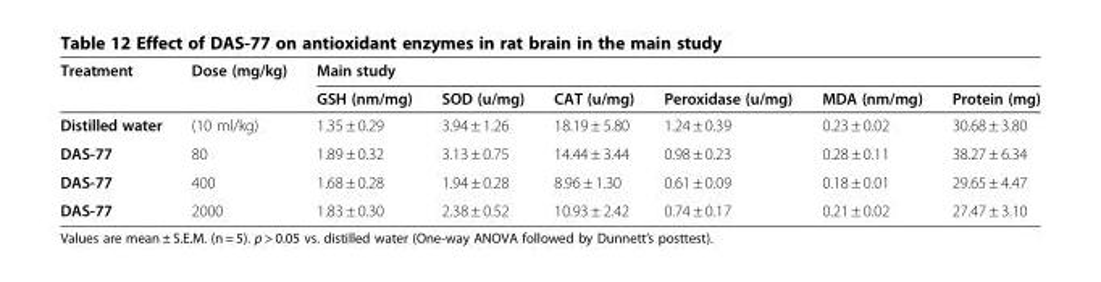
<table><tbody><tr><td rowspan="2">Treatment</td><td>Dose (mg/kg)</td><td colspan="6">Main study</td></tr><tr><td></td><td>GSH (nm/mg)</td><td>SOD (u/mg)</td><td>CAT (u/mg)</td><td>Peroxidase (u/mg)</td><td>MDA (nm/mg)</td><td>Protein (mg)</td></tr><tr><td>Distilled water</td><td>(10 ml/kg)</td><td>1.35 ± 0.29</td><td>3.94 ± 1.26</td><td>18.19 ± 5.80</td><td>1.24 ± 0.39</td><td>0.23 ± 0.02</td><td>30.68 ± 3.80</td></tr><tr><td>DAS-77</td><td>80</td><td>1.89 ± 0.32</td><td>3.13 ± 0.75</td><td>14.44 ± 3.44</td><td>0.98 ± 0.23</td><td>0.28 ± 0.11</td><td>38.27 ± 6.34</td></tr><tr><td>DAS-77</td><td>400</td><td>1.68 ± 0.28</td><td>1.94 ± 0.28</td><td>8.96 ± 1.30</td><td>0.61 ± 0.09</td><td>0.18 ± 0.01</td><td>29.65 ± 4.47</td></tr><tr><td>DAS-77</td><td>2000</td><td>1.83 ± 0.30</td><td>2.38 ± 0.52</td><td>10.93 ± 2.42</td><td>0.74 ± 0.17</td><td>0.21 ± 0.02</td><td>27.47 ± 3.10</td></tr></tbody></table>